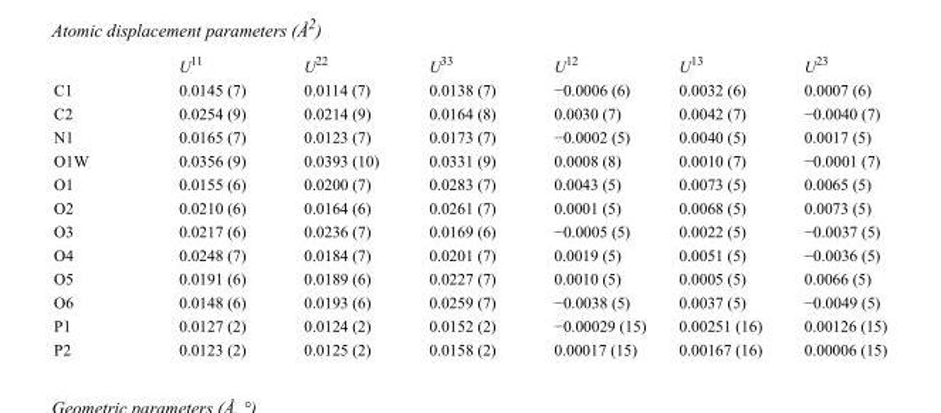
<table><thead><tr><td></td><td>U<sup>11</sup></td><td>U<sup>22</sup></td><td>U<sup>33</sup></td><td>U<sup>12</sup></td><td>U<sup>13</sup></td><td>U<sup>23</sup></td></tr></thead><tbody><tr><td>C1</td><td>0.0145 (7)</td><td>0.0114 (7)</td><td>0.0138 (7)</td><td>−0.0006 (6)</td><td>0.0032 (6)</td><td>0.0007 (6)</td></tr><tr><td>C2</td><td>0.0254 (9)</td><td>0.0214 (9)</td><td>0.0164 (8)</td><td>0.0030 (7)</td><td>0.0042 (7)</td><td>−0.0040 (7)</td></tr><tr><td>N1</td><td>0.0165 (7)</td><td>0.0123 (7)</td><td>0.0173 (7)</td><td>−0.0002 (5)</td><td>0.0040 (5)</td><td>0.0017 (5)</td></tr><tr><td>O1W</td><td>0.0356 (9)</td><td>0.0393 (10)</td><td>0.0331 (9)</td><td>0.0008 (8)</td><td>0.0010 (7)</td><td>−0.0001 (7)</td></tr><tr><td>O1</td><td>0.0155 (6)</td><td>0.0200 (7)</td><td>0.0283 (7)</td><td>0.0043 (5)</td><td>0.0073 (5)</td><td>0.0065 (5)</td></tr><tr><td>O2</td><td>0.0210 (6)</td><td>0.0164 (6)</td><td>0.0261 (7)</td><td>0.0001 (5)</td><td>0.0068 (5)</td><td>0.0073 (5)</td></tr><tr><td>O3</td><td>0.0217 (6)</td><td>0.0236 (7)</td><td>0.0169 (6)</td><td>−0.0005 (5)</td><td>0.0022 (5)</td><td>−0.0037 (5)</td></tr><tr><td>O4</td><td>0.0248 (7)</td><td>0.0184 (7)</td><td>0.0201 (7)</td><td>0.0019 (5)</td><td>0.0051 (5)</td><td>−0.0036 (5)</td></tr><tr><td>O5</td><td>0.0191 (6)</td><td>0.0189 (6)</td><td>0.0227 (7)</td><td>0.0010 (5)</td><td>0.0005 (5)</td><td>0.0066 (5)</td></tr><tr><td>O6</td><td>0.0148 (6)</td><td>0.0193 (6)</td><td>0.0259 (7)</td><td>−0.0038 (5)</td><td>0.0037 (5)</td><td>−0.0049 (5)</td></tr><tr><td>P1</td><td>0.0127 (2)</td><td>0.0124 (2)</td><td>0.0152 (2)</td><td>−0.00029 (15)</td><td>0.00251 (16)</td><td>0.00126 (15)</td></tr><tr><td>P2</td><td>0.0123 (2)</td><td>0.0125 (2)</td><td>0.0158 (2)</td><td>0.00017 (15)</td><td>0.00167 (16)</td><td>0.00006 (15)</td></tr></tbody></table>